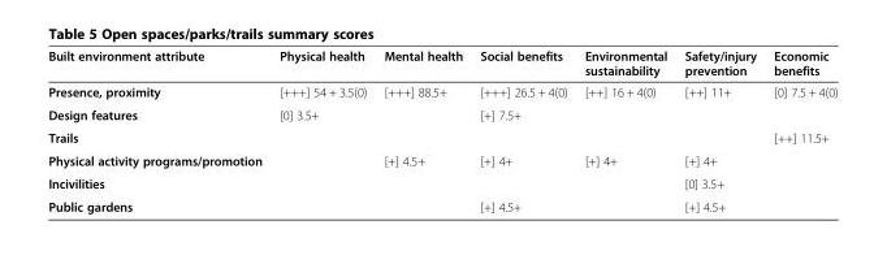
<table><thead><tr><td>Built environment attribute</td><td>Physical health</td><td>Mental health</td><td>Social benefits</td><td>Environmental sustainability</td><td>Safety/injury prevention</td><td>Economic benefits</td></tr></thead><tbody><tr><td>Presence, proximity</td><td>[+++] 54 + 3.5(0)</td><td>[+++] 88.5+</td><td>[+++] 26.5 + 4(0)</td><td>[++] 16 + 4(0)</td><td>[++] 11+</td><td>[0] 7.5 + 4(0)</td></tr><tr><td>Design features</td><td>[0] 3.5+</td><td></td><td>[+] 7.5+</td><td></td><td></td><td></td></tr><tr><td>Trails</td><td></td><td></td><td></td><td></td><td></td><td>[++] 11.5+</td></tr><tr><td>Physical activity programs/promotion</td><td></td><td>[+] 4.5+</td><td>[+] 4+</td><td>[+] 4+</td><td>[+] 4+</td><td></td></tr><tr><td>Incivilities</td><td></td><td></td><td></td><td></td><td>[0] 3.5+</td><td></td></tr><tr><td>Public gardens</td><td></td><td></td><td>[+] 4.5+</td><td></td><td>[+] 4.5+</td><td></td></tr></tbody></table>